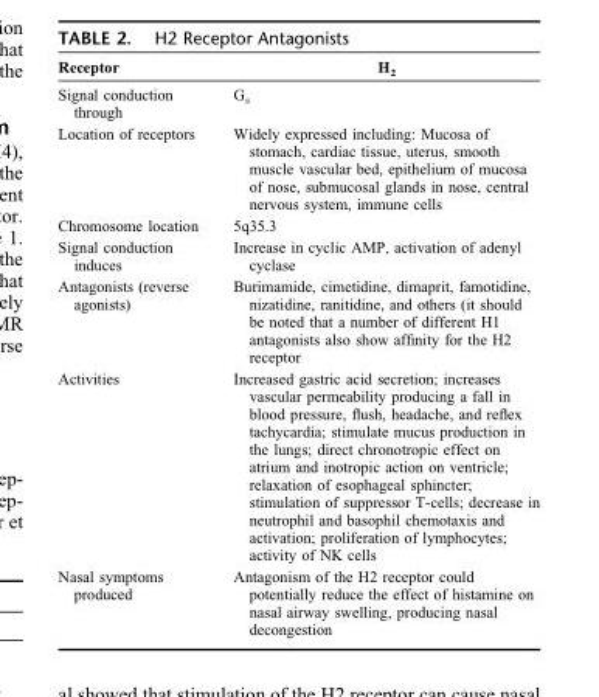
<table><thead><tr><td>Receptor</td><td>H<sub>2</sub></td></tr></thead><tbody><tr><td>Signal conduction through</td><td>G<sub>s</sub></td></tr><tr><td>Location of receptors</td><td>Widely expressed including: Mucosa of stomach, cardiac tissue, uterus, smooth muscle vascular bed, epithelium of mucosa of nose, submucosal glands in nose, central nervous system, immune cells</td></tr><tr><td>Chromosome location</td><td>5q35.3</td></tr><tr><td>Signal conduction induces</td><td>Increase in cyclic AMP, activation of adenyl cyclase</td></tr><tr><td>Antagonists (reverse agonists)</td><td>Burimamide, cimetidine, dimaprit, famotidine, nizatidine, ranitidine, and others (it should be noted that a number of different H1 antagonists also show affinity for the H2 receptor</td></tr><tr><td>Activities</td><td>Increased gastric acid secretion; increases vascular permeability producing a fall in blood pressure, flush, headache, and reflex tachycardia; stimulate mucus production in the lungs; direct chronotropic effect on atrium and inotropic action on ventricle; relaxation of esophageal sphincter; stimulation of suppressor T-cells; decrease in neutrophil and basophil chemotaxis and activation; proliferation of lymphocytes; activity of NK cells</td></tr><tr><td>Nasal symptoms produced</td><td>Antagonism of the H2 receptor could potentially reduce the effect of histamine on nasal airway swelling, producing nasal decongestion</td></tr></tbody></table>